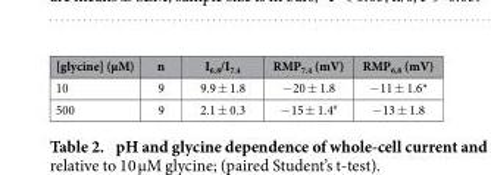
<table><thead><tr><td>[glycine] (μM)</td><td>n</td><td>I<sub>6.8</sub>/I<sub>7.4</sub></td><td>RMP<sub>7.4</sub> (mV)</td><td>RMP<sub>6.8</sub> (mV)</td></tr></thead><tbody><tr><td>10</td><td>9</td><td>9.9 ± 1.8</td><td>− 20 ± 1.8</td><td>− 11 ± 1.6*</td></tr><tr><td>500</td><td>9</td><td>2.1 ± 0.3</td><td>− 15 ± 1.4<sup>#</sup></td><td>− 13 ± 1.8</td></tr></tbody></table>